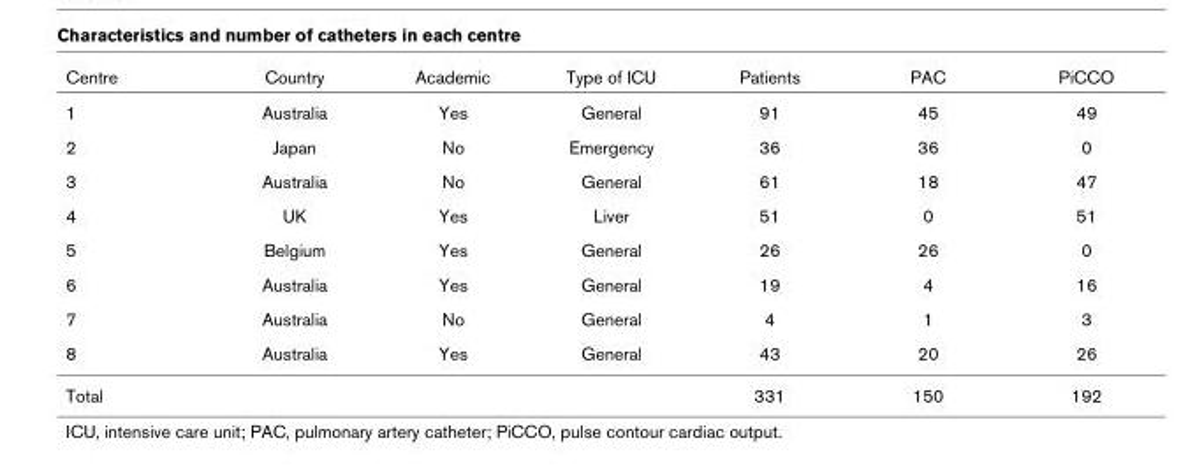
<table><thead><tr><td>Centre</td><td>Country</td><td>Academic</td><td>Type of ICU</td><td>Patients</td><td>PAC</td><td>PiCCO</td></tr></thead><tbody><tr><td>1</td><td>Australia</td><td>Yes</td><td>General</td><td>91</td><td>45</td><td>49</td></tr><tr><td>2</td><td>Japan</td><td>No</td><td>Emergency</td><td>36</td><td>36</td><td>0</td></tr><tr><td>3</td><td>Australia</td><td>No</td><td>General</td><td>61</td><td>18</td><td>47</td></tr><tr><td>4</td><td>UK</td><td>Yes</td><td>Liver</td><td>51</td><td>0</td><td>51</td></tr><tr><td>5</td><td>Belgium</td><td>Yes</td><td>General</td><td>26</td><td>26</td><td>0</td></tr><tr><td>6</td><td>Australia</td><td>Yes</td><td>General</td><td>19</td><td>4</td><td>16</td></tr><tr><td>7</td><td>Australia</td><td>No</td><td>General</td><td>4</td><td>1</td><td>3</td></tr><tr><td>8</td><td>Australia</td><td>Yes</td><td>General</td><td>43</td><td>20</td><td>26</td></tr><tr><td>Total</td><td></td><td></td><td></td><td>331</td><td>150</td><td>192</td></tr></tbody></table>